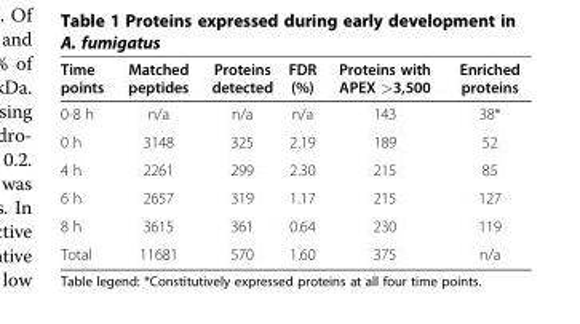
<table><thead><tr><td>Time points</td><td>Matched peptides</td><td>Proteins detected</td><td>FDR (%)</td><td>Proteins with APEX &gt;3,500</td><td>Enriched proteins</td></tr></thead><tbody><tr><td>0-8 h</td><td>n/a</td><td>n/a</td><td>n/a</td><td>143</td><td>38*</td></tr><tr><td>0 h</td><td>3148</td><td>325</td><td>2.19</td><td>189</td><td>52</td></tr><tr><td>4 h</td><td>2261</td><td>299</td><td>2.30</td><td>215</td><td>85</td></tr><tr><td>6 h</td><td>2657</td><td>319</td><td>1.17</td><td>215</td><td>127</td></tr><tr><td>8 h</td><td>3615</td><td>361</td><td>0.64</td><td>230</td><td>119</td></tr><tr><td>Total</td><td>11681</td><td>570</td><td>1.60</td><td>375</td><td>n/a</td></tr></tbody></table>